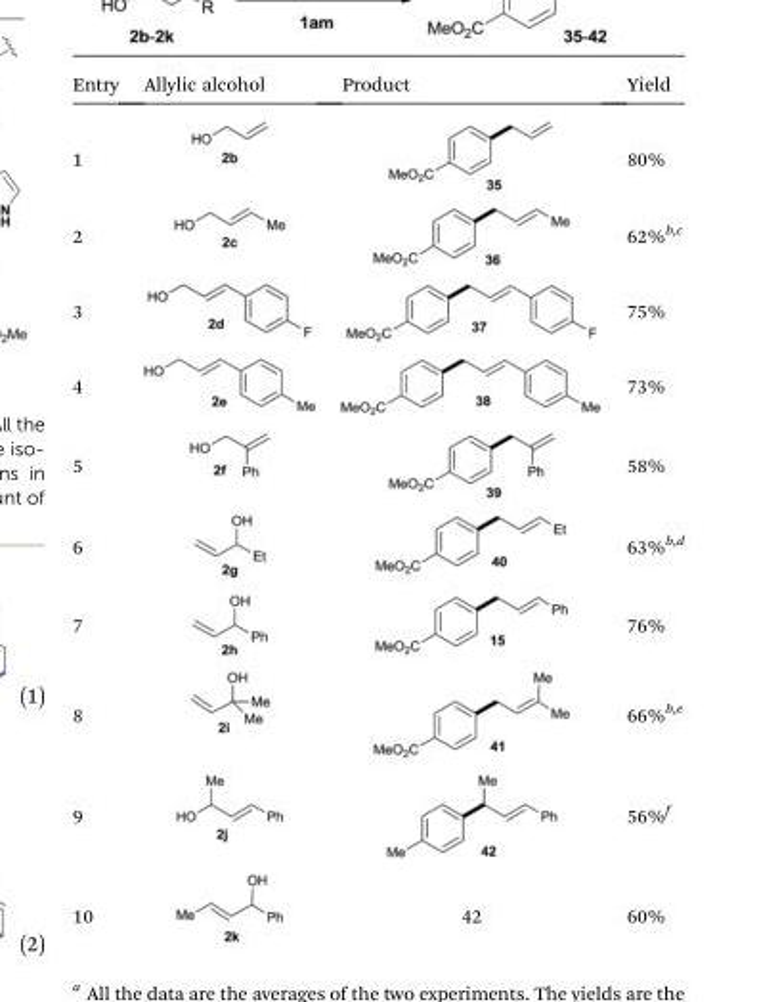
<table><thead><tr><td>Entry</td><td>Allylic alcohol</td><td>Product</td><td>Yield</td></tr></thead><tbody><tr><td>1</td><td></td><td></td><td>80%</td></tr><tr><td>2</td><td></td><td></td><td>62%<sup>b,c</sup></td></tr><tr><td>3</td><td></td><td></td><td>75%</td></tr><tr><td>4</td><td></td><td></td><td>73%</td></tr><tr><td>5</td><td></td><td></td><td>58%</td></tr><tr><td>6</td><td></td><td></td><td>63%<sup>b,d</sup></td></tr><tr><td>7</td><td></td><td></td><td>76%</td></tr><tr><td>8</td><td></td><td></td><td>66%<sup>b,e</sup></td></tr><tr><td>9</td><td></td><td></td><td>56%<sup>f</sup></td></tr><tr><td>10</td><td></td><td>42</td><td>60%</td></tr></tbody></table>